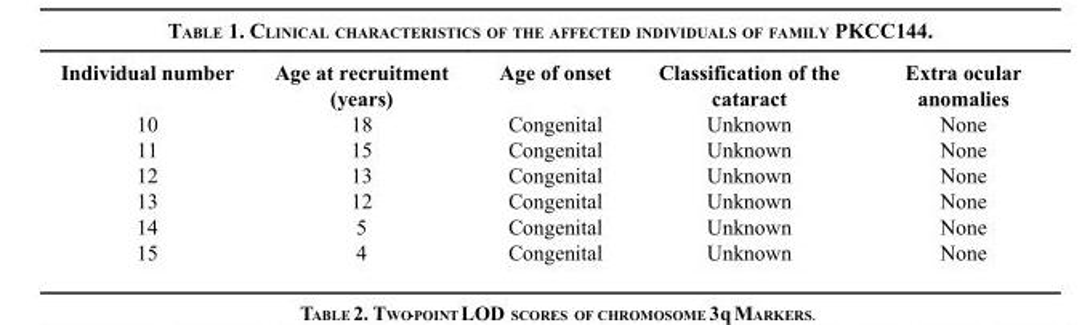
<table><thead><tr><td>Individual number</td><td>Age at recruitment (years)</td><td>Age of onset</td><td>Classification of the cataract</td><td>Extra ocular anomalies</td></tr></thead><tbody><tr><td>10</td><td>18</td><td>Congenital</td><td>Unknown</td><td>None</td></tr><tr><td>11</td><td>15</td><td>Congenital</td><td>Unknown</td><td>None</td></tr><tr><td>12</td><td>13</td><td>Congenital</td><td>Unknown</td><td>None</td></tr><tr><td>13</td><td>12</td><td>Congenital</td><td>Unknown</td><td>None</td></tr><tr><td>14</td><td>5</td><td>Congenital</td><td>Unknown</td><td>None</td></tr><tr><td>15</td><td>4</td><td>Congenital</td><td>Unknown</td><td>None</td></tr></tbody></table>